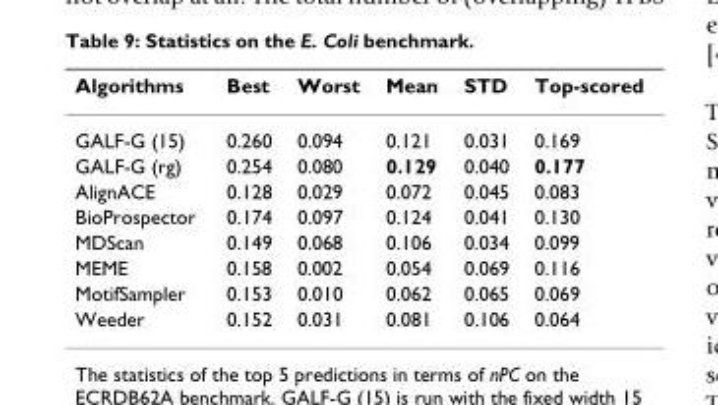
<table><thead><tr><td>Algorithms</td><td>Best</td><td>Worst</td><td>Mean</td><td>STD</td><td>Top-scored</td></tr></thead><tbody><tr><td>GALF-G (15)</td><td>0.260</td><td>0.094</td><td>0.121</td><td>0.031</td><td>0.169</td></tr><tr><td>GALF-G (rg)</td><td>0.254</td><td>0.080</td><td>0.129</td><td>0.040</td><td>0.177</td></tr><tr><td>AlignACE</td><td>0.128</td><td>0.029</td><td>0.072</td><td>0.045</td><td>0.083</td></tr><tr><td>BioProspector</td><td>0.174</td><td>0.097</td><td>0.124</td><td>0.041</td><td>0.130</td></tr><tr><td>MDScan</td><td>0.149</td><td>0.068</td><td>0.106</td><td>0.034</td><td>0.099</td></tr><tr><td>MEME</td><td>0.158</td><td>0.002</td><td>0.054</td><td>0.069</td><td>0.116</td></tr><tr><td>MotifSampler</td><td>0.153</td><td>0.010</td><td>0.062</td><td>0.065</td><td>0.069</td></tr><tr><td>Weeder</td><td>0.152</td><td>0.031</td><td>0.081</td><td>0.106</td><td>0.064</td></tr></tbody></table>